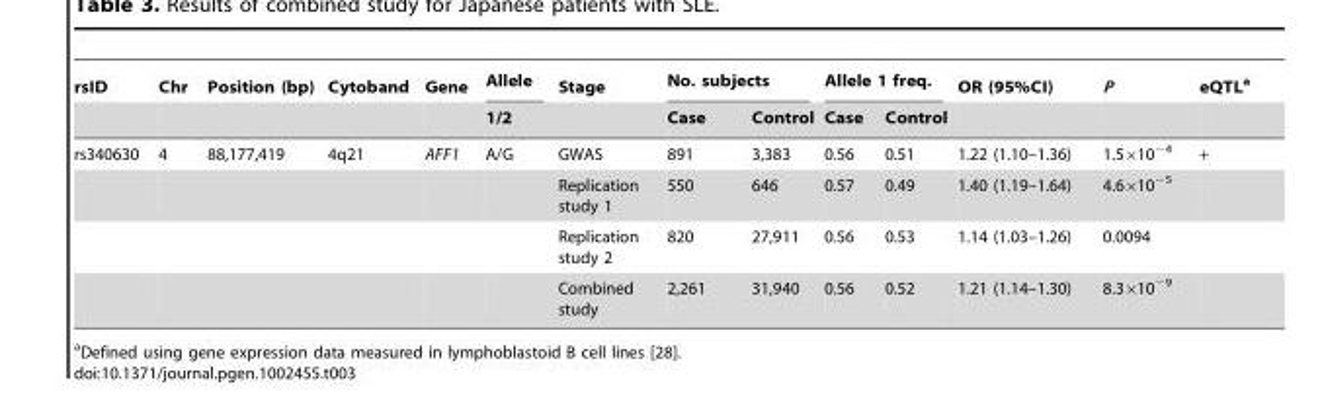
<table><thead><tr><td rowspan="2">rsID</td><td rowspan="2">Chr</td><td rowspan="2">Position (bp)</td><td rowspan="2">Cytoband</td><td rowspan="2">Gene</td><td rowspan="2">Allele 1/2</td><td rowspan="2">Stage</td><td colspan="2">No. subjects</td><td colspan="2">Allele 1 freq.</td><td rowspan="2">OR (95%CI)</td><td rowspan="2">P</td><td rowspan="2">eQTL<sup>a</sup></td></tr><tr><td>Case</td><td>Control</td><td>Case</td><td>Control</td></tr></thead><tbody><tr><td rowspan="4">rs340630</td><td>4</td><td>88,177,419</td><td>4q21</td><td>AFF1</td><td>A/G</td><td>GWAS</td><td>891</td><td>3,383</td><td>0.56</td><td>0.51</td><td>1.22 (1.10–1.36)</td><td>1.5×10<sup>−4</sup></td><td>+</td></tr><tr><td></td><td></td><td></td><td></td><td></td><td>Replication study 1</td><td>550</td><td>646</td><td>0.57</td><td>0.49</td><td>1.40 (1.19–1.64)</td><td>4.6×10<sup>−5</sup></td><td></td></tr><tr><td></td><td></td><td></td><td></td><td></td><td>Replication study 2</td><td>820</td><td>27,911</td><td>0.56</td><td>0.53</td><td>1.14 (1.03–1.26)</td><td>0.0094</td><td></td></tr><tr><td></td><td></td><td></td><td></td><td></td><td>Combined study</td><td>2,261</td><td>31,940</td><td>0.56</td><td>0.52</td><td>1.21 (1.14–1.30)</td><td>8.3×10<sup>−9</sup></td><td></td></tr></tbody></table>